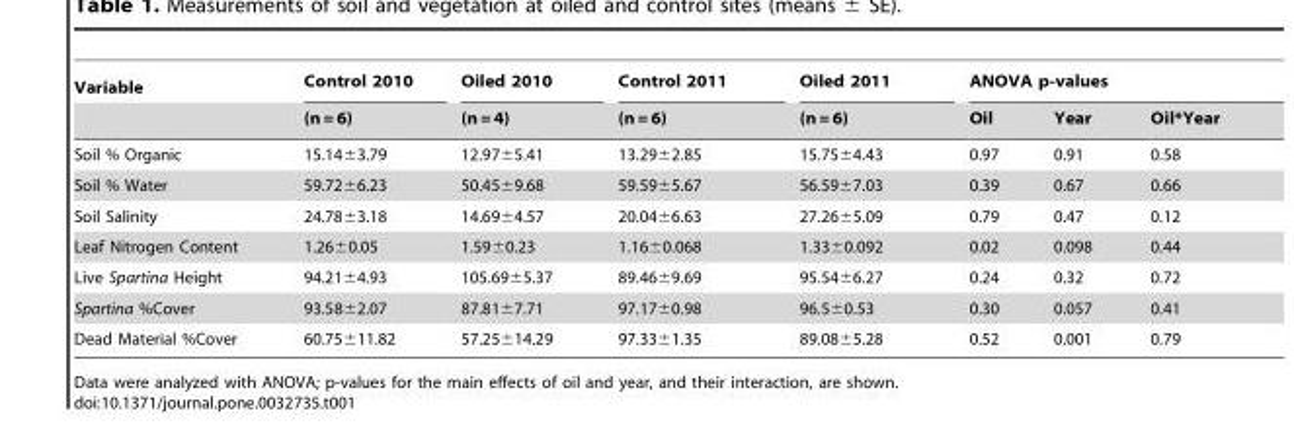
<table><thead><tr><td rowspan="2">Variable</td><td rowspan="2">Control 2010 (n = 6)</td><td rowspan="2">Oiled 2010 (n = 4)</td><td rowspan="2">Control 2011 (n = 6)</td><td rowspan="2">Oiled 2011 (n = 6)</td><td colspan="3">ANOVA p-values</td></tr><tr><td>Oil</td><td>Year</td><td>Oil*Year</td></tr></thead><tbody><tr><td>Soil % Organic</td><td>15.14±3.79</td><td>12.97±5.41</td><td>13.29±2.85</td><td>15.75±4.43</td><td>0.97</td><td>0.91</td><td>0.58</td></tr><tr><td>Soil % Water</td><td>59.72±6.23</td><td>50.45±9.68</td><td>59.59±5.67</td><td>56.59±7.03</td><td>0.39</td><td>0.67</td><td>0.66</td></tr><tr><td>Soil Salinity</td><td>24.78±3.18</td><td>14.69±4.57</td><td>20.04±6.63</td><td>27.26±5.09</td><td>0.79</td><td>0.47</td><td>0.12</td></tr><tr><td>Leaf Nitrogen Content</td><td>1.26±0.05</td><td>1.59±0.23</td><td>1.16±0.068</td><td>1.33±0.092</td><td>0.02</td><td>0.098</td><td>0.44</td></tr><tr><td>Live Spartina Height</td><td>94.21±4.93</td><td>105.69±5.37</td><td>89.46±9.69</td><td>95.54±6.27</td><td>0.24</td><td>0.32</td><td>0.72</td></tr><tr><td>Spartina %Cover</td><td>93.58±2.07</td><td>87.81±7.71</td><td>97.17±0.98</td><td>96.5±0.53</td><td>0.30</td><td>0.057</td><td>0.41</td></tr><tr><td>Dead Material %Cover</td><td>60.75±11.82</td><td>57.25±14.29</td><td>97.33±1.35</td><td>89.08±5.28</td><td>0.52</td><td>0.001</td><td>0.79</td></tr></tbody></table>